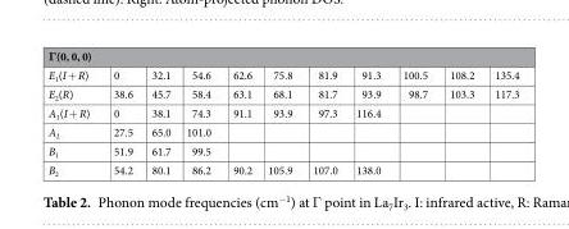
<table><thead><tr><td colspan="11">Γ(0, 0, 0)</td></tr><tr><td>E<sub>1</sub>(I + R)</td><td>0</td><td>32.1</td><td>54.6</td><td>62.6</td><td>75.8</td><td>81.9</td><td>91.3</td><td>100.5</td><td>108.2</td><td>135.4</td></tr></thead><tbody><tr><td>E<sub>2</sub>(R)</td><td>38.6</td><td>45.7</td><td>58.4</td><td>63.1</td><td>68.1</td><td>81.7</td><td>93.9</td><td>98.7</td><td>103.3</td><td>117.3</td></tr><tr><td>A<sub>1</sub>(I + R)</td><td>0</td><td>38.1</td><td>74.3</td><td>91.1</td><td>93.9</td><td>97.3</td><td>116.4</td><td></td><td></td><td></td></tr><tr><td>A<sub>2</sub></td><td>27.5</td><td>65.0</td><td>101.0</td><td></td><td></td><td></td><td></td><td></td><td></td><td></td></tr><tr><td>B<sub>1</sub></td><td>51.9</td><td>61.7</td><td>99.5</td><td></td><td></td><td></td><td></td><td></td><td></td><td></td></tr><tr><td>B<sub>2</sub></td><td>54.2</td><td>80.1</td><td>86.2</td><td>90.2</td><td>105.9</td><td>107.0</td><td>138.0</td><td></td><td></td><td></td></tr></tbody></table>